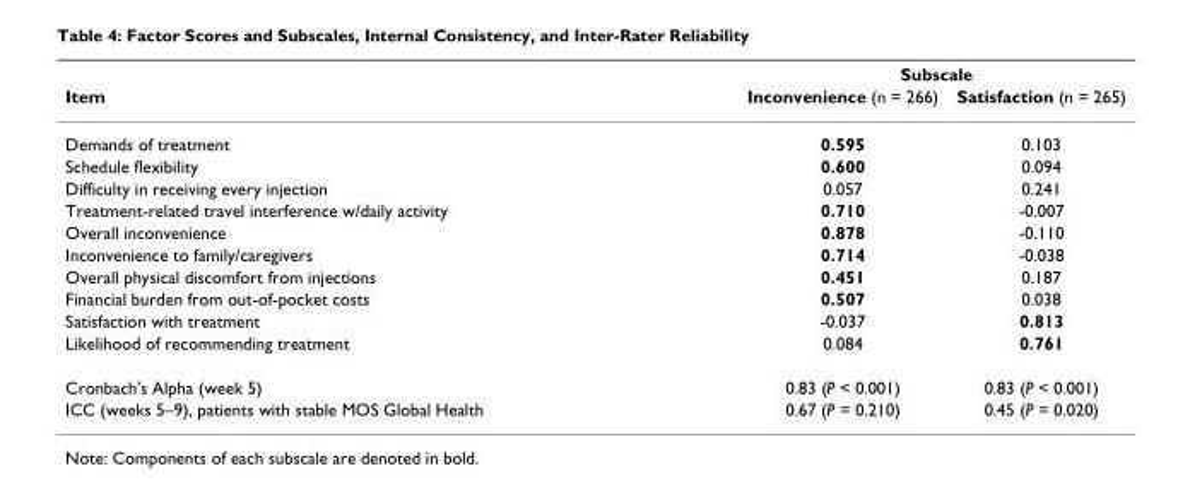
<table><thead><tr><td rowspan="2">Item</td><td colspan="2">Subscale</td></tr><tr><td>Inconvenience (n = 266)</td><td>Satisfaction (n = 265)</td></tr></thead><tbody><tr><td>Demands of treatment</td><td>0.595</td><td>0.103</td></tr><tr><td>Schedule flexibility</td><td>0.600</td><td>0.094</td></tr><tr><td>Difficulty in receiving every injection</td><td>0.057</td><td>0.241</td></tr><tr><td>Treatment-related travel interference w/daily activity</td><td>0.710</td><td>-0.007</td></tr><tr><td>Overall inconvenience</td><td>0.878</td><td>-0.110</td></tr><tr><td>Inconvenience to family/caregivers</td><td>0.714</td><td>-0.038</td></tr><tr><td>Overall physical discomfort from injections</td><td>0.451</td><td>0.187</td></tr><tr><td>Financial burden from out-of-pocket costs</td><td>0.507</td><td>0.038</td></tr><tr><td>Satisfaction with treatment</td><td>-0.037</td><td>0.813</td></tr><tr><td>Likelihood of recommending treatment</td><td>0.084</td><td>0.761</td></tr><tr><td>Cronbach&#x27;s Alpha (week 5)</td><td>0.83 (P &lt; 0.001)</td><td>0.83 (P &lt; 0.001)</td></tr><tr><td>ICC (weeks 5–9), patients with stable MOS Global Health</td><td>0.67 (P = 0.210)</td><td>0.45 (P = 0.020)</td></tr></tbody></table>